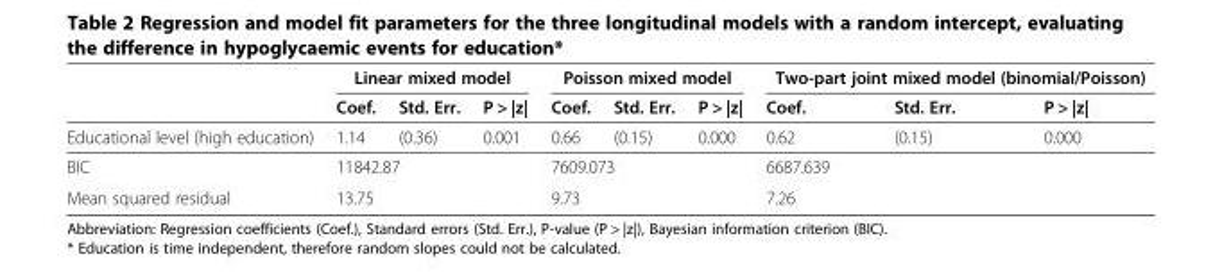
<table><thead><tr><td rowspan="2"></td><td colspan="3">Linear mixed model</td><td colspan="3">Poisson mixed model</td><td colspan="3">Two-part joint mixed model (binomial/Poisson)</td></tr><tr><td>Coef.</td><td>Std. Err.</td><td>P &gt; |z|</td><td>Coef.</td><td>Std. Err.</td><td>P &gt; |z|</td><td>Coef.</td><td>Std. Err.</td><td>P &gt; |z|</td></tr></thead><tbody><tr><td>Educational level (high education)</td><td>1.14</td><td>(0.36)</td><td>0.001</td><td>0.66</td><td>(0.15)</td><td>0.000</td><td>0.62</td><td>(0.15)</td><td>0.000</td></tr><tr><td>BIC</td><td colspan="3">11842.87</td><td colspan="3">7609.073</td><td colspan="3">6687.639</td></tr><tr><td>Mean squared residual</td><td colspan="3">13.75</td><td colspan="3">9.73</td><td colspan="3">7.26</td></tr></tbody></table>